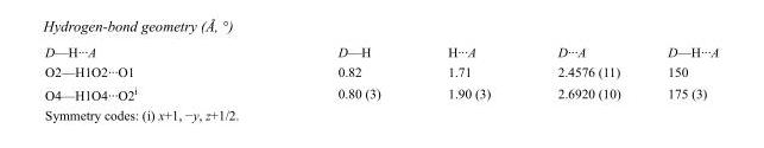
<table><tbody><tr><td>D—H···A</td><td>D—H</td><td>H···A</td><td>D···A</td><td>D—H···A</td></tr><tr><td>O2—H1O2···O1</td><td>0.82</td><td>1.71</td><td>2.4576 (11)</td><td>150</td></tr><tr><td>O4—H1O4···O2<sup>i</sup></td><td>0.80 (3)</td><td>1.90 (3)</td><td>2.6920 (10)</td><td>175 (3)</td></tr></tbody></table>